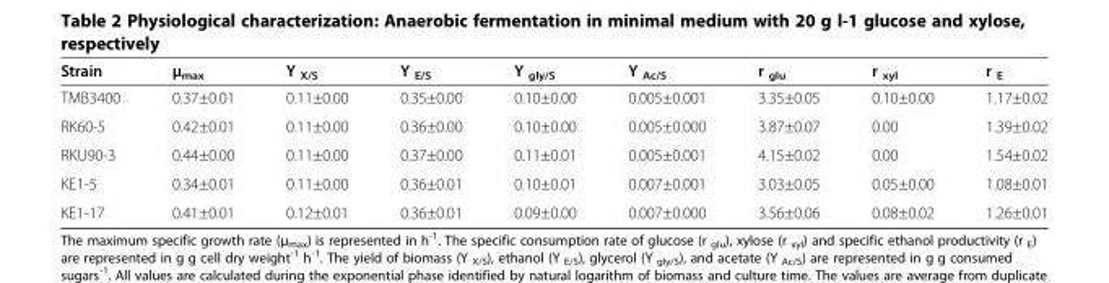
<table><thead><tr><td>Strain</td><td>μ<sub>max</sub></td><td>Y <sub>X/S</sub></td><td>Y <sub>E/S</sub></td><td>Y <sub>gly/S</sub></td><td>Y <sub>Ac/S</sub></td><td>r <sub>glu</sub></td><td>r <sub>xyl</sub></td><td>r <sub>E</sub></td></tr></thead><tbody><tr><td>TMB3400</td><td>0.37±0.01</td><td>0.11±0.00</td><td>0.35±0.00</td><td>0.10±0.00</td><td>0.005±0.001</td><td>3.35±0.05</td><td>0.10±0.00</td><td>1.17±0.02</td></tr><tr><td>RK60-5</td><td>0.42±0.01</td><td>0.11±0.00</td><td>0.36±0.00</td><td>0.10±0.00</td><td>0.005±0.000</td><td>3.87±0.07</td><td>0.00</td><td>1.39±0.02</td></tr><tr><td>RKU90-3</td><td>0.44±0.00</td><td>0.11±0.00</td><td>0.37±0.00</td><td>0.11±0.01</td><td>0.005±0.001</td><td>4.15±0.02</td><td>0.00</td><td>1.54±0.02</td></tr><tr><td>KE1-5</td><td>0.34±0.01</td><td>0.11±0.00</td><td>0.36±0.01</td><td>0.10±0.01</td><td>0.007±0.001</td><td>3.03±0.05</td><td>0.05±0.00</td><td>1.08±0.01</td></tr><tr><td>KE1-17</td><td>0.41±0.01</td><td>0.12±0.01</td><td>0.36±0.01</td><td>0.09±0.00</td><td>0.007±0.000</td><td>3.56±0.06</td><td>0.08±0.02</td><td>1.26±0.01</td></tr></tbody></table>